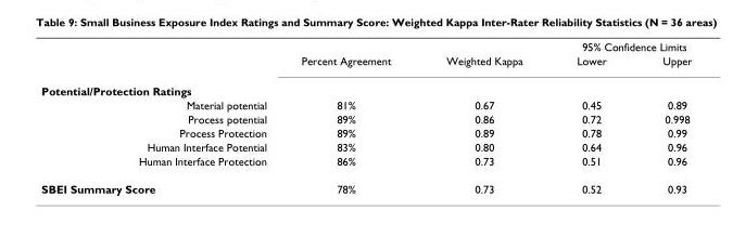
<table><thead><tr><td rowspan="2"></td><td rowspan="2">Percent Agreement</td><td rowspan="2">Weighted Kappa</td><td colspan="2">95% Confidence Limits</td></tr><tr><td>Lower</td><td>Upper</td></tr></thead><tbody><tr><td colspan="5">Potential/Protection Ratings</td></tr><tr><td>Material potential</td><td>81%</td><td>0.67</td><td>0.45</td><td>0.89</td></tr><tr><td>Process potential</td><td>89%</td><td>0.86</td><td>0.72</td><td>0.998</td></tr><tr><td>Process Protection</td><td>89%</td><td>0.89</td><td>0.78</td><td>0.99</td></tr><tr><td>Human Interface Potential</td><td>83%</td><td>0.80</td><td>0.64</td><td>0.96</td></tr><tr><td>Human Interface Protection</td><td>86%</td><td>0.73</td><td>0.51</td><td>0.96</td></tr><tr><td>SBEI Summary Score</td><td>78%</td><td>0.73</td><td>0.52</td><td>0.93</td></tr></tbody></table>